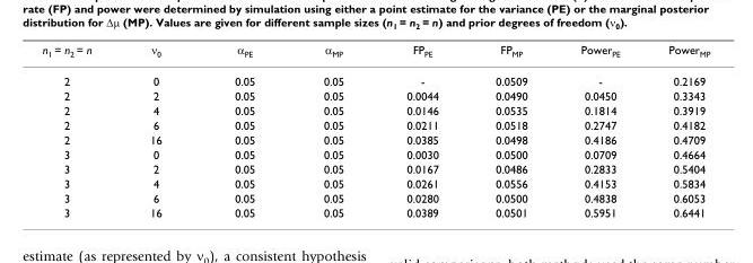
<table><thead><tr><td>n<sub>1</sub> = n<sub>2</sub> = n</td><td>ν<sub>0</sub></td><td>α<sub>PE</sub></td><td>α<sub>MP</sub></td><td>FP<sub>PE</sub></td><td>FP<sub>MP</sub></td><td>Power<sub>PE</sub></td><td>Power<sub>MP</sub></td></tr></thead><tbody><tr><td>2</td><td>0</td><td>0.05</td><td>0.05</td><td>-</td><td>0.0509</td><td>-</td><td>0.2169</td></tr><tr><td>2</td><td>2</td><td>0.05</td><td>0.05</td><td>0.0044</td><td>0.0490</td><td>0.0450</td><td>0.3343</td></tr><tr><td>2</td><td>4</td><td>0.05</td><td>0.05</td><td>0.0146</td><td>0.0535</td><td>0.1814</td><td>0.3919</td></tr><tr><td>2</td><td>6</td><td>0.05</td><td>0.05</td><td>0.0211</td><td>0.0518</td><td>0.2747</td><td>0.4182</td></tr><tr><td>2</td><td>16</td><td>0.05</td><td>0.05</td><td>0.0385</td><td>0.0498</td><td>0.4186</td><td>0.4709</td></tr><tr><td>3</td><td>0</td><td>0.05</td><td>0.05</td><td>0.0030</td><td>0.0500</td><td>0.0709</td><td>0.4664</td></tr><tr><td>3</td><td>2</td><td>0.05</td><td>0.05</td><td>0.0167</td><td>0.0486</td><td>0.2833</td><td>0.5404</td></tr><tr><td>3</td><td>4</td><td>0.05</td><td>0.05</td><td>0.0261</td><td>0.0556</td><td>0.4153</td><td>0.5834</td></tr><tr><td>3</td><td>6</td><td>0.05</td><td>0.05</td><td>0.0280</td><td>0.0500</td><td>0.4838</td><td>0.6053</td></tr><tr><td>3</td><td>16</td><td>0.05</td><td>0.05</td><td>0.0389</td><td>0.0501</td><td>0.5951</td><td>0.6441</td></tr></tbody></table>